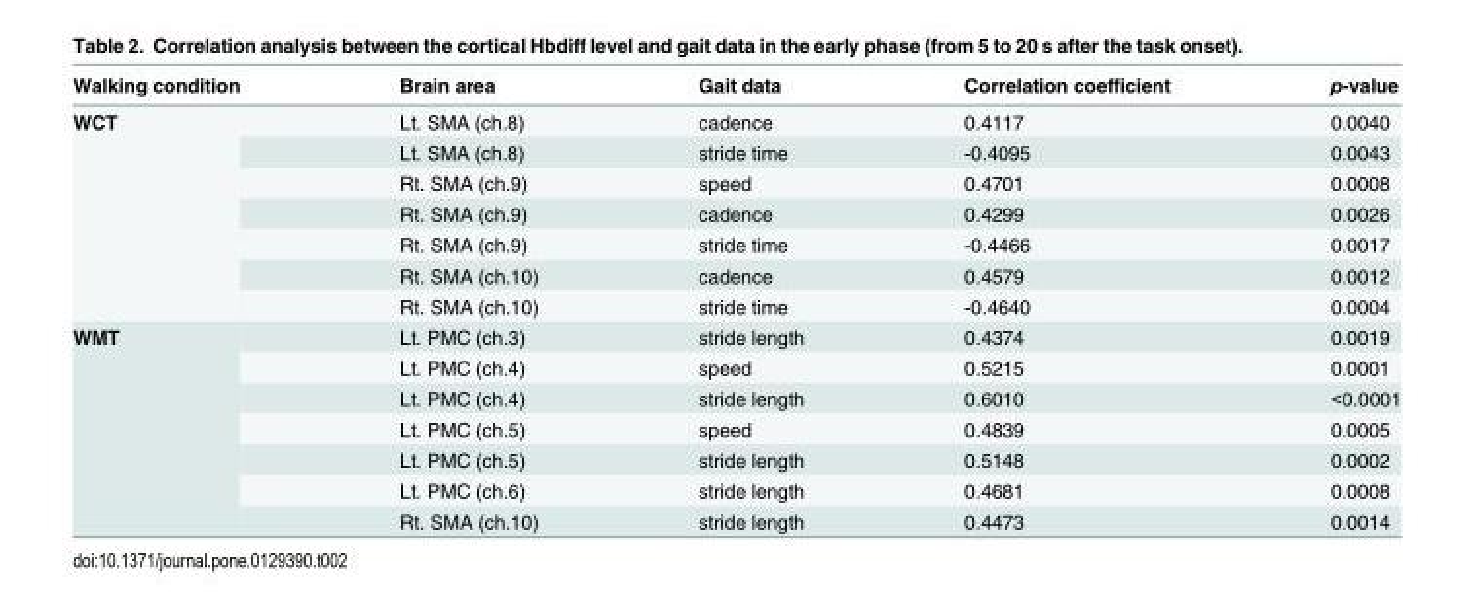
<table><thead><tr><td>Walking condition</td><td>Brain area</td><td>Gait data</td><td>Correlation coefficient</td><td>p-value</td></tr></thead><tbody><tr><td rowspan="7">WCT</td><td>Lt. SMA (ch.8)</td><td>cadence</td><td>0.4117</td><td>0.0040</td></tr><tr><td>Lt. SMA (ch.8)</td><td>stride time</td><td>-0.4095</td><td>0.0043</td></tr><tr><td>Rt. SMA (ch.9)</td><td>speed</td><td>0.4701</td><td>0.0008</td></tr><tr><td>Rt. SMA (ch.9)</td><td>cadence</td><td>0.4299</td><td>0.0026</td></tr><tr><td>Rt. SMA (ch.9)</td><td>stride time</td><td>-0.4466</td><td>0.0017</td></tr><tr><td>Rt. SMA (ch.10)</td><td>cadence</td><td>0.4579</td><td>0.0012</td></tr><tr><td>Rt. SMA (ch.10)</td><td>stride time</td><td>-0.4640</td><td>0.0004</td></tr><tr><td rowspan="7">WMT</td><td>Lt. PMC (ch.3)</td><td>stride length</td><td>0.4374</td><td>0.0019</td></tr><tr><td>Lt. PMC (ch.4)</td><td>speed</td><td>0.5215</td><td>0.0001</td></tr><tr><td>Lt. PMC (ch.4)</td><td>stride length</td><td>0.6010</td><td>&lt;0.0001</td></tr><tr><td>Lt. PMC (ch.5)</td><td>speed</td><td>0.4839</td><td>0.0005</td></tr><tr><td>Lt. PMC (ch.5)</td><td>stride length</td><td>0.5148</td><td>0.0002</td></tr><tr><td>Lt. PMC (ch.6)</td><td>stride length</td><td>0.4681</td><td>0.0008</td></tr><tr><td>Rt. SMA (ch.10)</td><td>stride length</td><td>0.4473</td><td>0.0014</td></tr></tbody></table>